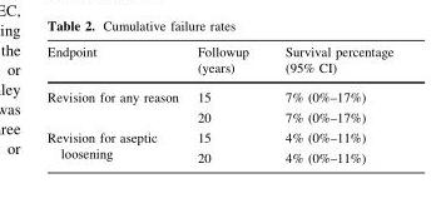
<table><thead><tr><td>Endpoint</td><td>Followup (years)</td><td>Survival percentage (95% CI)</td></tr></thead><tbody><tr><td rowspan="2">Revision for any reason</td><td>15</td><td>7% (0%–17%)</td></tr><tr><td>20</td><td>7% (0%–17%)</td></tr><tr><td rowspan="2">Revision for aseptic loosening</td><td>15</td><td>4% (0%–11%)</td></tr><tr><td>20</td><td>4% (0%–11%)</td></tr></tbody></table>